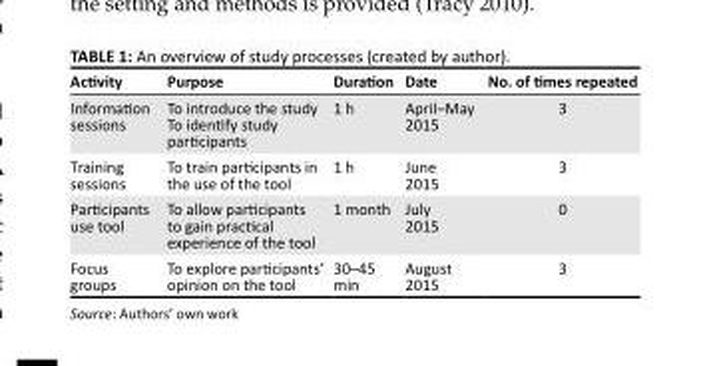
<table><thead><tr><td>Activity</td><td>Purpose</td><td>Duration</td><td>Date</td><td>No. of times repeated</td></tr></thead><tbody><tr><td>Information sessions</td><td>To introduce the study To identify study participants</td><td>1 h</td><td>April–May 2015</td><td>3</td></tr><tr><td>Training sessions</td><td>To train participants in the use of the tool</td><td>1 h</td><td>June 2015</td><td>3</td></tr><tr><td>Participants use tool</td><td>To allow participants to gain practical experience of the tool</td><td>1 month</td><td>July 2015</td><td>0</td></tr><tr><td>Focus groups</td><td>To explore participants’ opinion on the tool</td><td>30–45 min</td><td>August 2015</td><td>3</td></tr></tbody></table>